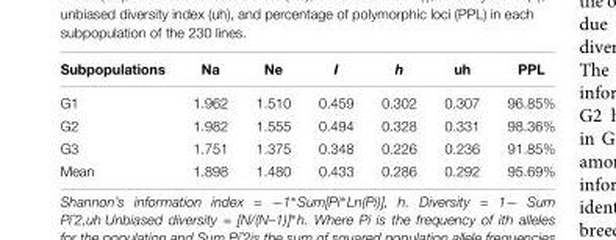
<table><thead><tr><td>Subpopulations</td><td>Na</td><td>Ne</td><td>I</td><td>h</td><td>uh</td><td>PPL</td></tr></thead><tbody><tr><td>G1</td><td>1.962</td><td>1.510</td><td>0.459</td><td>0.302</td><td>0.307</td><td>96.85%</td></tr><tr><td>G2</td><td>1.982</td><td>1.555</td><td>0.494</td><td>0.328</td><td>0.331</td><td>98.36%</td></tr><tr><td>G3</td><td>1.751</td><td>1.375</td><td>0.348</td><td>0.226</td><td>0.236</td><td>91.85%</td></tr><tr><td>Mean</td><td>1.898</td><td>1.480</td><td>0.433</td><td>0.286</td><td>0.292</td><td>95.69%</td></tr></tbody></table>